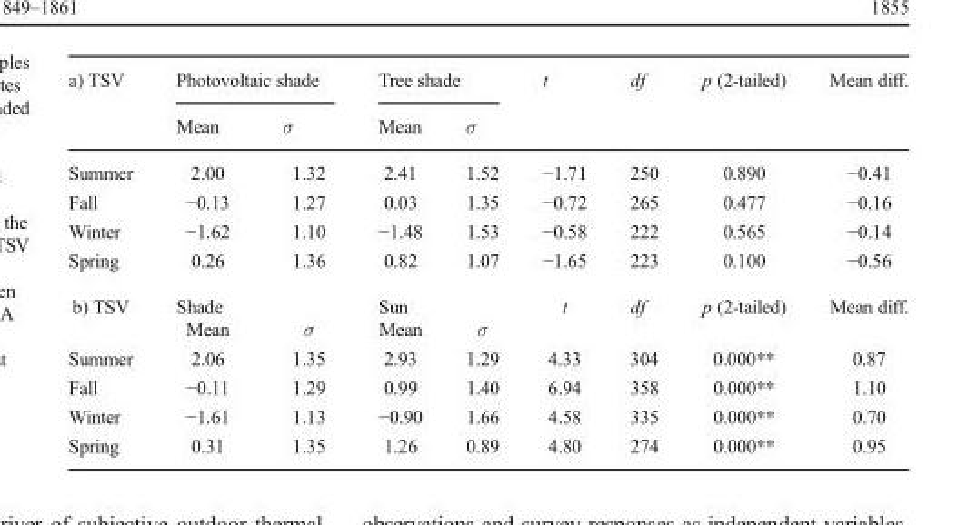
<table><thead><tr><td rowspan="2">a) TSV</td><td colspan="2">Photovoltaic shade</td><td colspan="2">Tree shade</td><td rowspan="2">t</td><td rowspan="2">df</td><td rowspan="2">p (2-tailed)</td><td rowspan="2">Mean diff.</td></tr><tr><td>Mean</td><td>σ</td><td>Mean</td><td>σ</td></tr></thead><tbody><tr><td>Summer</td><td>2.00</td><td>1.32</td><td>2.41</td><td>1.52</td><td>−1.71</td><td>250</td><td>0.890</td><td>−0.41</td></tr><tr><td>Fall</td><td>−0.13</td><td>1.27</td><td>0.03</td><td>1.35</td><td>−0.72</td><td>265</td><td>0.477</td><td>−0.16</td></tr><tr><td>Winter</td><td>−1.62</td><td>1.10</td><td>−1.48</td><td>1.53</td><td>−0.58</td><td>222</td><td>0.565</td><td>−0.14</td></tr><tr><td>Spring</td><td>0.26</td><td>1.36</td><td>0.82</td><td>1.07</td><td>−1.65</td><td>223</td><td>0.100</td><td>−0.56</td></tr><tr><td rowspan="2">b) TSV</td><td colspan="2">Shade</td><td colspan="2">Sun</td><td rowspan="2">t</td><td rowspan="2">df</td><td rowspan="2">p (2-tailed)</td><td rowspan="2">Mean diff.</td></tr><tr><td>Mean</td><td>σ</td><td>Mean</td><td>σ</td></tr><tr><td>Summer</td><td>2.06</td><td>1.35</td><td>2.93</td><td>1.29</td><td>4.33</td><td>304</td><td>0.000**</td><td>0.87</td></tr><tr><td>Fall</td><td>−0.11</td><td>1.29</td><td>0.99</td><td>1.40</td><td>6.94</td><td>358</td><td>0.000**</td><td>1.10</td></tr><tr><td>Winter</td><td>−1.61</td><td>1.13</td><td>−0.90</td><td>1.66</td><td>4.58</td><td>335</td><td>0.000**</td><td>0.70</td></tr><tr><td>Spring</td><td>0.31</td><td>1.35</td><td>1.26</td><td>0.89</td><td>4.80</td><td>274</td><td>0.000**</td><td>0.95</td></tr></tbody></table>